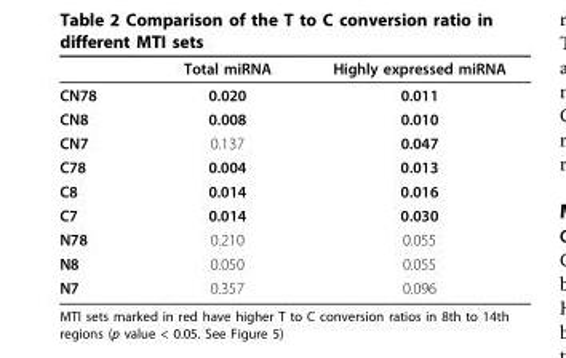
<table><thead><tr><td></td><td>Total miRNA</td><td>Highly expressed miRNA</td></tr></thead><tbody><tr><td>CN78</td><td>0.020</td><td>0.011</td></tr><tr><td>CN8</td><td>0.008</td><td>0.010</td></tr><tr><td>CN7</td><td>0.137</td><td>0.047</td></tr><tr><td>C78</td><td>0.004</td><td>0.013</td></tr><tr><td>C8</td><td>0.014</td><td>0.016</td></tr><tr><td>C7</td><td>0.014</td><td>0.030</td></tr><tr><td>N78</td><td>0.210</td><td>0.055</td></tr><tr><td>N8</td><td>0.050</td><td>0.055</td></tr><tr><td>N7</td><td>0.357</td><td>0.096</td></tr></tbody></table>